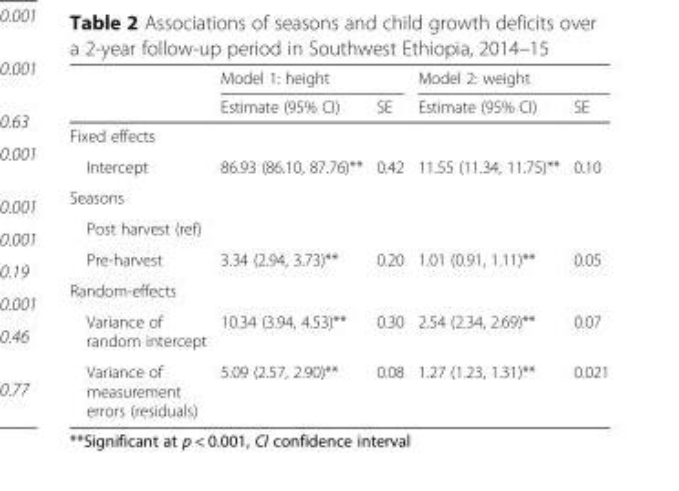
<table><thead><tr><td rowspan="2"></td><td colspan="2">Model 1: height</td><td colspan="2">Model 2: weight</td></tr><tr><td>Estimate (95% CI)</td><td>SE</td><td>Estimate (95% CI)</td><td>SE</td></tr></thead><tbody><tr><td colspan="5">Fixed effects</td></tr><tr><td>Intercept</td><td>86.93 (86.10, 87.76)**</td><td>0.42</td><td>11.55 (11.34, 11.75)**</td><td>0.10</td></tr><tr><td colspan="5">Seasons</td></tr><tr><td colspan="5">Post harvest (ref)</td></tr><tr><td>Pre-harvest</td><td>3.34 (2.94, 3.73)**</td><td>0.20</td><td>1.01 (0.91, 1.11)**</td><td>0.05</td></tr><tr><td colspan="5">Random-effects</td></tr><tr><td>Variance of random intercept</td><td>10.34 (3.94, 4.53)**</td><td>0.30</td><td>2.54 (2.34, 2.69)**</td><td>0.07</td></tr><tr><td>Variance of measurement errors (residuals)</td><td>5.09 (2.57, 2.90)**</td><td>0.08</td><td>1.27 (1.23, 1.31)**</td><td>0.021</td></tr></tbody></table>